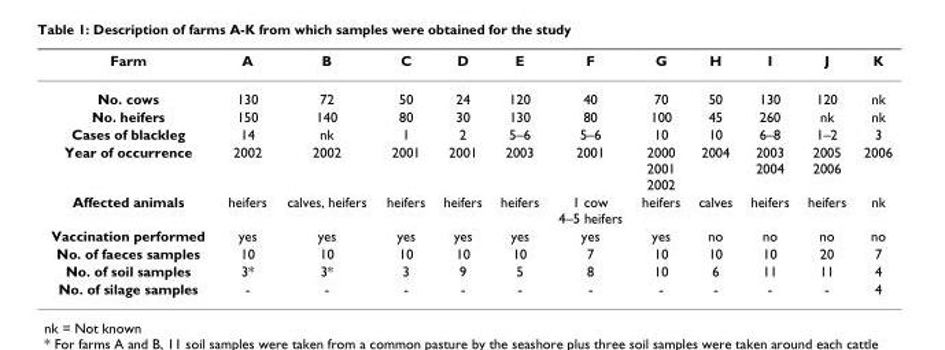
<table><thead><tr><td>Farm</td><td>A</td><td>B</td><td>C</td><td>D</td><td>E</td><td>F</td><td>G</td><td>H</td><td>I</td><td>J</td><td>K</td></tr></thead><tbody><tr><td>No. cows</td><td>130</td><td>72</td><td>50</td><td>24</td><td>120</td><td>40</td><td>70</td><td>50</td><td>130</td><td>120</td><td>nk</td></tr><tr><td>No. heifers</td><td>150</td><td>140</td><td>80</td><td>30</td><td>130</td><td>80</td><td>100</td><td>45</td><td>260</td><td>nk</td><td>nk</td></tr><tr><td>Cases of blackleg</td><td>14</td><td>nk</td><td>1</td><td>2</td><td>5–6</td><td>5–6</td><td>10</td><td>10</td><td>6–8</td><td>1–2</td><td>3</td></tr><tr><td>Year of occurrence</td><td>2002</td><td>2002</td><td>2001</td><td>2001</td><td>2003</td><td>2001</td><td>2000 2001 2002</td><td>2004</td><td>2003 2004</td><td>2005 2006</td><td>2006</td></tr><tr><td>Affected animals</td><td>heifers</td><td>calves, heifers</td><td>heifers</td><td>heifers</td><td>heifers</td><td>1 cow 4–5 heifers</td><td>heifers</td><td>calves</td><td>heifers</td><td>heifers</td><td>nk</td></tr><tr><td>Vaccination performed</td><td>yes</td><td>yes</td><td>yes</td><td>yes</td><td>yes</td><td>yes</td><td>yes</td><td>no</td><td>no</td><td>no</td><td>no</td></tr><tr><td>No. of faeces samples</td><td>10</td><td>10</td><td>10</td><td>10</td><td>10</td><td>7</td><td>10</td><td>10</td><td>10</td><td>20</td><td>7</td></tr><tr><td>No. of soil samples</td><td>3*</td><td>3*</td><td>3</td><td>9</td><td>5</td><td>8</td><td>10</td><td>6</td><td>11</td><td>11</td><td>4</td></tr><tr><td>No. of silage samples</td><td>-</td><td>-</td><td>-</td><td>-</td><td>-</td><td>-</td><td>-</td><td>-</td><td>-</td><td>-</td><td>4</td></tr></tbody></table>